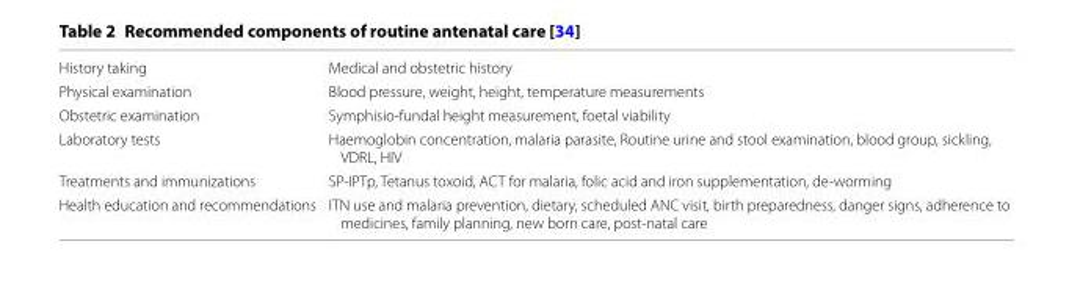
<table><tbody><tr><td>History taking</td><td>Medical and obstetric history</td></tr><tr><td>Physical examination</td><td>Blood pressure, weight, height, temperature measurements</td></tr><tr><td>Obstetric examination</td><td>Symphisio-fundal height measurement, foetal viability</td></tr><tr><td>Laboratory tests</td><td>Haemoglobin concentration, malaria parasite, Routine urine and stool examination, blood group, sickling, VDRL, HIV</td></tr><tr><td>Treatments and immunizations</td><td>SP-IPTp, Tetanus toxoid, ACT for malaria, folic acid and iron supplementation, de-worming</td></tr><tr><td>Health education and recommendations</td><td>ITN use and malaria prevention, dietary, scheduled ANC visit, birth preparedness, danger signs, adherence to medicines, family planning, new born care, post-natal care</td></tr></tbody></table>